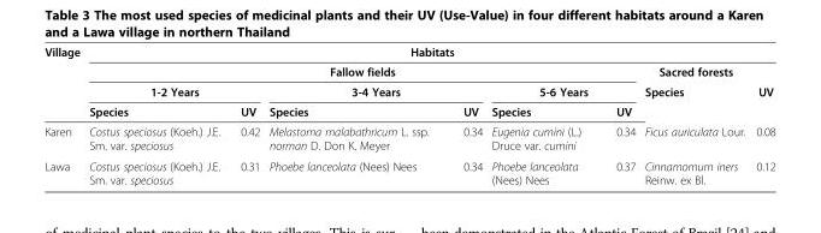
<table><thead><tr><td rowspan="4">Village</td><td colspan="8">Habitats</td></tr><tr><td colspan="6">Fallow fields</td><td rowspan="3">Sacred forests Species</td><td rowspan="3">UV</td></tr><tr><td colspan="2">1-2 Years</td><td colspan="2">3-4 Years</td><td colspan="2">5-6 Years</td></tr><tr><td>Species</td><td>UV</td><td>Species</td><td>UV</td><td>Species</td><td>UV</td></tr></thead><tbody><tr><td>Karen</td><td>Costus speciosus (Koeh.) J.E. Sm. var. speciosus</td><td>0.42</td><td>Melastoma malabathricum L. ssp. norman D. Don K. Meyer</td><td>0.34</td><td>Eugenia cumini (L.) Druce var. cumini</td><td>0.34</td><td>Ficus auriculata Lour.</td><td>0.08</td></tr><tr><td>Lawa</td><td>Costus speciosus (Koeh.) J.E. Sm. var. speciosus</td><td>0.31</td><td>Phoebe lanceolata (Nees) Nees</td><td>0.34</td><td>Phoebe lanceolata (Nees) Nees</td><td>0.37</td><td>Cinnamomum iners Reinw. ex Bl.</td><td>0.12</td></tr></tbody></table>